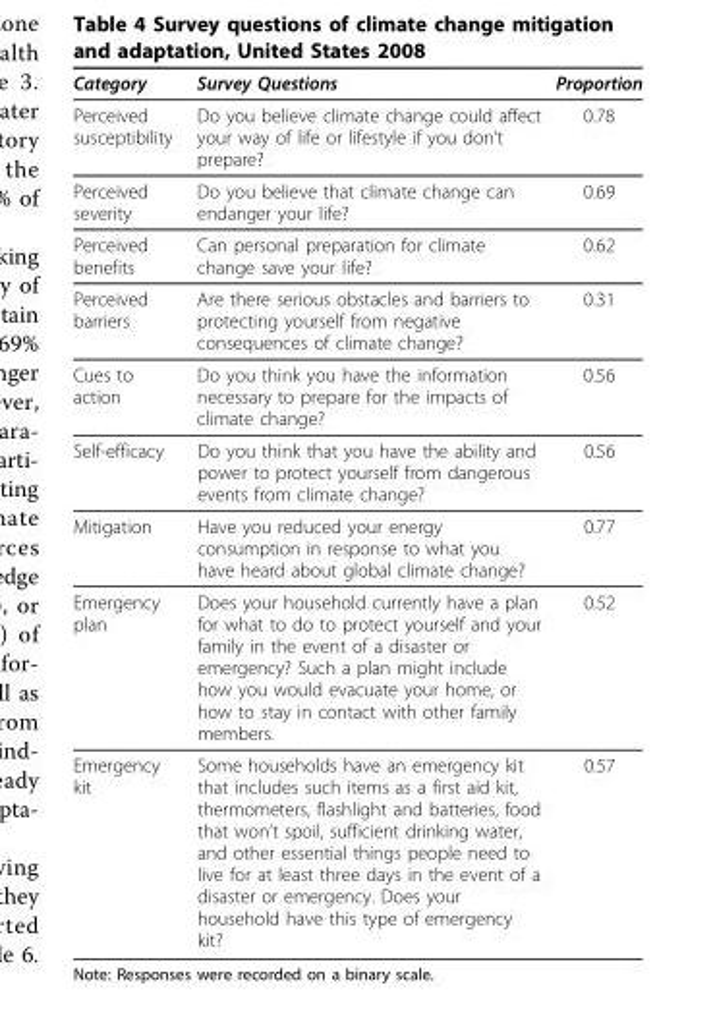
<table><thead><tr><td>Category</td><td>Survey Questions</td><td>Proportion</td></tr></thead><tbody><tr><td>Perceived susceptibility</td><td>Do you believe climate change could affect your way of life or lifestyle if you don’t prepare?</td><td>0.78</td></tr><tr><td>Perceived severity</td><td>Do you believe that climate change can endanger your life?</td><td>0.69</td></tr><tr><td>Perceived benefits</td><td>Can personal preparation for climate change save your life?</td><td>0.62</td></tr><tr><td>Perceived barriers</td><td>Are there serious obstacles and barriers to protecting yourself from negative consequences of climate change?</td><td>0.31</td></tr><tr><td>Cues to action</td><td>Do you think you have the information necessary to prepare for the impacts of climate change?</td><td>0.56</td></tr><tr><td>Self-efficacy</td><td>Do you think that you have the ability and power to protect yourself from dangerous events from climate change?</td><td>0.56</td></tr><tr><td>Mitigation</td><td>Have you reduced your energy consumption in response to what you have heard about global climate change?</td><td>0.77</td></tr><tr><td>Emergency plan</td><td>Does your household currently have a plan for what to do to protect yourself and your family in the event of a disaster or emergency? Such a plan might include how you would evacuate your home, or how to stay in contact with other family members.</td><td>0.52</td></tr><tr><td>Emergency kit</td><td>Some households have an emergency kit that includes such items as a first aid kit, thermometers, flashlight and batteries, food that won’t spoil, sufficient drinking water, and other essential things people need to live for at least three days in the event of a disaster or emergency. Does your household have this type of emergency kit?</td><td>0.57</td></tr></tbody></table>